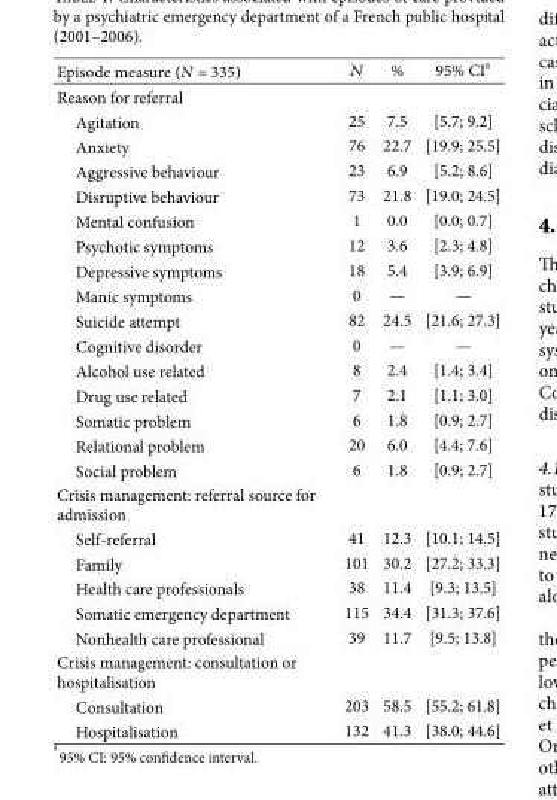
<table><thead><tr><td>Episode measure (N = 335)</td><td>𝑁𝑁</td><td>𝑁</td><td>95𝑁 CIa</td></tr></thead><tbody><tr><td colspan="4">Reason for referral</td></tr><tr><td>Agitation</td><td>25</td><td>7.5</td><td>[5.7; 9.2]</td></tr><tr><td>Anxiety</td><td>76</td><td>22.7</td><td>[19.9; 25.5]</td></tr><tr><td>Aggressive behaviour</td><td>23</td><td>6.9</td><td>[5.2; 8.6]</td></tr><tr><td>Disruptive behaviour</td><td>73</td><td>21.8</td><td>[19.0; 24.5]</td></tr><tr><td>Mental confusion</td><td>1</td><td>0.0</td><td>[0.0; 0.7]</td></tr><tr><td>Psychotic symptoms</td><td>12</td><td>3.6</td><td>[2.3; 4.8]</td></tr><tr><td>Depressive symptoms</td><td>18</td><td>5.4</td><td>[3.9; 6.9]</td></tr><tr><td>Manic symptoms</td><td>0</td><td>—</td><td>—</td></tr><tr><td>Suicide attempt</td><td>82</td><td>24.5</td><td>[21.6; 27.3]</td></tr><tr><td>Cognitive disorder</td><td>0</td><td>—</td><td>—</td></tr><tr><td>Alcohol use related</td><td>8</td><td>2.4</td><td>[1.4; 3.4]</td></tr><tr><td>Drug use related</td><td>7</td><td>2.1</td><td>[1.1; 3.0]</td></tr><tr><td>Somatic problem</td><td>6</td><td>1.8</td><td>[0.9; 2.7]</td></tr><tr><td>Relational problem</td><td>20</td><td>6.0</td><td>[4.4; 7.6]</td></tr><tr><td>Social problem</td><td>6</td><td>1.8</td><td>[0.9; 2.7]</td></tr><tr><td colspan="4">Crisis management: referral source for admission</td></tr><tr><td>Self-referral</td><td>41</td><td>12.3</td><td>[10.1; 14.5]</td></tr><tr><td>Family</td><td>101</td><td>30.2</td><td>[27.2; 33.3]</td></tr><tr><td>Health care professionals</td><td>38</td><td>11.4</td><td>[9.3; 13.5]</td></tr><tr><td>Somatic emergency department</td><td>115</td><td>34.4</td><td>[31.3; 37.6]</td></tr><tr><td>Nonhealth care professional</td><td>39</td><td>11.7</td><td>[9.5; 13.8]</td></tr><tr><td colspan="4">Crisis management: consultation or hospitalisation</td></tr><tr><td>Consultation</td><td>203</td><td>58.5</td><td>[55.2; 61.8]</td></tr><tr><td>Hospitalisation</td><td>132</td><td>41.3</td><td>[38.0; 44.6]</td></tr></tbody></table>